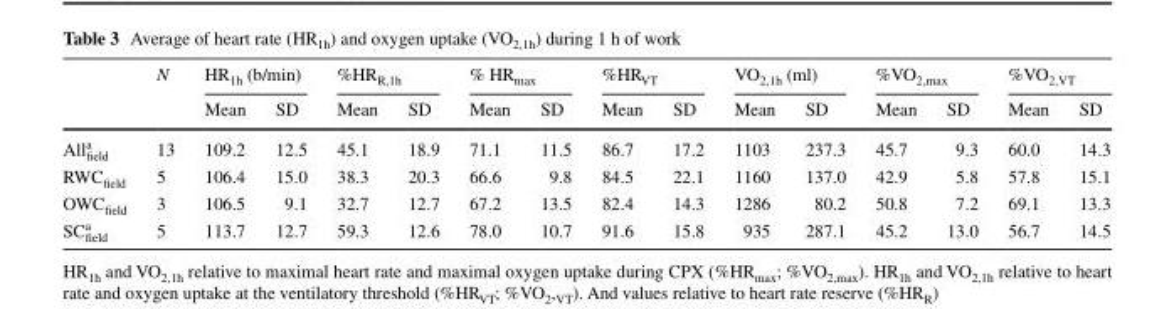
<table><thead><tr><td rowspan="2"></td><td rowspan="2">N</td><td colspan="2">HR<sub>1h</sub> (b/min)</td><td colspan="2">%HR<sub>R,1h</sub></td><td colspan="2">% HR<sub>max</sub></td><td colspan="2">%HR<sub>VT</sub></td><td colspan="2">VO<sub>2,1h</sub> (ml)</td><td colspan="2">%VO<sub>2,max</sub></td><td colspan="2">%VO<sub>2,VT</sub></td></tr><tr><td>Mean</td><td>SD</td><td>Mean</td><td>SD</td><td>Mean</td><td>SD</td><td>Mean</td><td>SD</td><td>Mean</td><td>SD</td><td>Mean</td><td>SD</td><td>Mean</td><td>SD</td></tr></thead><tbody><tr><td>Alla field</td><td>13</td><td>109.2</td><td>12.5</td><td>45.1</td><td>18.9</td><td>71.1</td><td>11.5</td><td>86.7</td><td>17.2</td><td>1103</td><td>237.3</td><td>45.7</td><td>9.3</td><td>60.0</td><td>14.3</td></tr><tr><td>RWC<sub>field</sub></td><td>5</td><td>106.4</td><td>15.0</td><td>38.3</td><td>20.3</td><td>66.6</td><td>9.8</td><td>84.5</td><td>22.1</td><td>1160</td><td>137.0</td><td>42.9</td><td>5.8</td><td>57.8</td><td>15.1</td></tr><tr><td>OWC<sub>field</sub></td><td>3</td><td>106.5</td><td>9.1</td><td>32.7</td><td>12.7</td><td>67.2</td><td>13.5</td><td>82.4</td><td>14.3</td><td>1286</td><td>80.2</td><td>50.8</td><td>7.2</td><td>69.1</td><td>13.3</td></tr><tr><td>SCa field</td><td>5</td><td>113.7</td><td>12.7</td><td>59.3</td><td>12.6</td><td>78.0</td><td>10.7</td><td>91.6</td><td>15.8</td><td>935</td><td>287.1</td><td>45.2</td><td>13.0</td><td>56.7</td><td>14.5</td></tr></tbody></table>